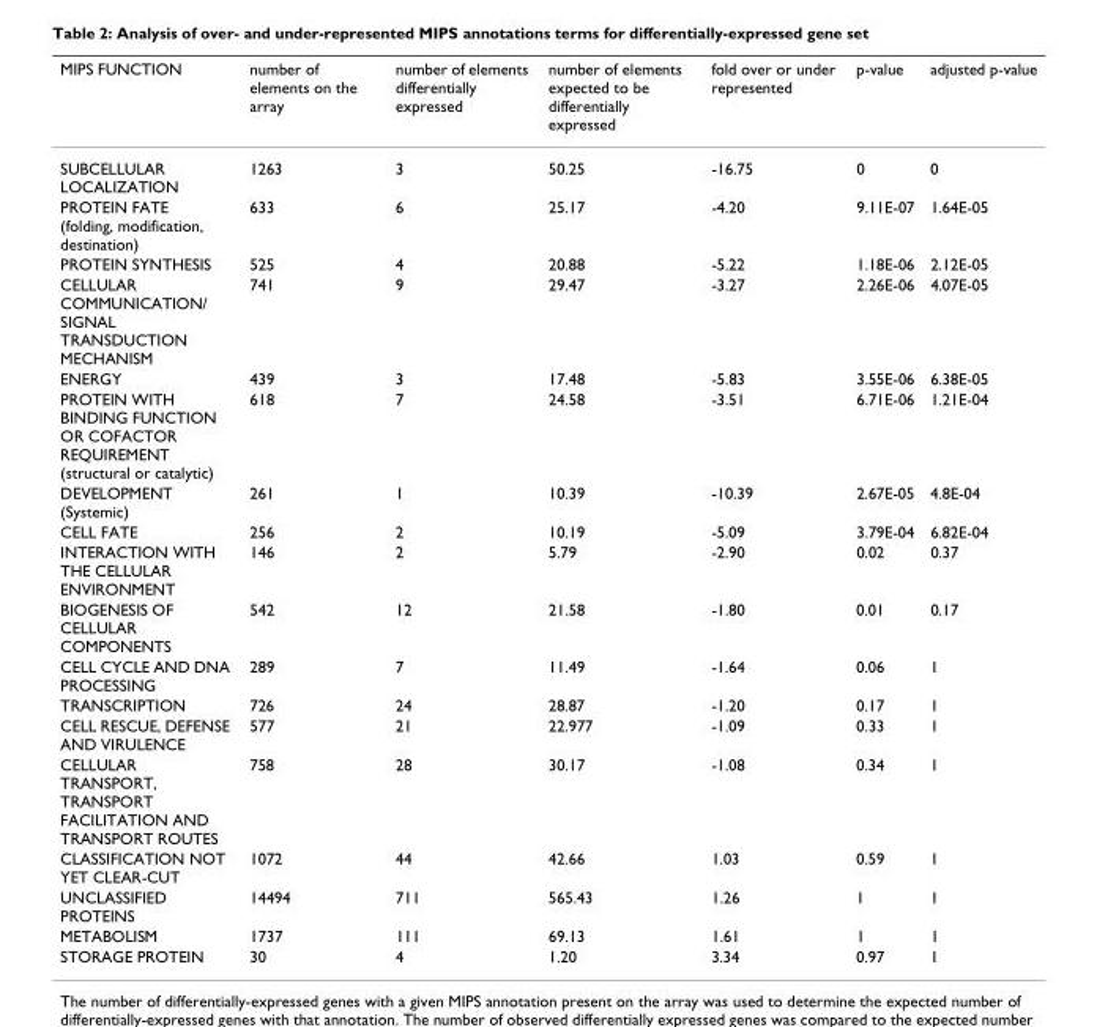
<table><thead><tr><td>MIPS FUNCTION</td><td>number of elements on the array</td><td>number of elements differentially expressed</td><td>number of elements expected to be differentially expressed</td><td>fold over or under represented</td><td>p-value</td><td>adjusted p-value</td></tr></thead><tbody><tr><td>SUBCELLULAR LOCALIZATION</td><td>1263</td><td>3</td><td>50.25</td><td>-16.75</td><td>0</td><td>0</td></tr><tr><td>PROTEIN FATE (folding, modification, destination)</td><td>633</td><td>6</td><td>25.17</td><td>-4.20</td><td>9.11E-07</td><td>1.64E-05</td></tr><tr><td>PROTEIN SYNTHESIS</td><td>525</td><td>4</td><td>20.88</td><td>-5.22</td><td>1.18E-06</td><td>2.12E-05</td></tr><tr><td>CELLULAR COMMUNICATION/ SIGNAL TRANSDUCTION MECHANISM</td><td>741</td><td>9</td><td>29.47</td><td>-3.27</td><td>2.26E-06</td><td>4.07E-05</td></tr><tr><td>ENERGY</td><td>439</td><td>3</td><td>17.48</td><td>-5.83</td><td>3.55E-06</td><td>6.38E-05</td></tr><tr><td>PROTEIN WITH BINDING FUNCTION OR COFACTOR REQUIREMENT (structural or catalytic)</td><td>618</td><td>7</td><td>24.58</td><td>-3.51</td><td>6.71E-06</td><td>1.21E-04</td></tr><tr><td>DEVELOPMENT (Systemic)</td><td>261</td><td>1</td><td>10.39</td><td>-10.39</td><td>2.67E-05</td><td>4.8E-04</td></tr><tr><td>CELL FATE</td><td>256</td><td>2</td><td>10.19</td><td>-5.09</td><td>3.79E-04</td><td>6.82E-04</td></tr><tr><td>INTERACTION WITH THE CELLULAR ENVIRONMENT</td><td>146</td><td>2</td><td>5.79</td><td>-2.90</td><td>0.02</td><td>0.37</td></tr><tr><td>BIOGENESIS OF CELLULAR COMPONENTS</td><td>542</td><td>12</td><td>21.58</td><td>-1.80</td><td>0.01</td><td>0.17</td></tr><tr><td>CELL CYCLE AND DNA PROCESSING</td><td>289</td><td>7</td><td>11.49</td><td>-1.64</td><td>0.06</td><td>1</td></tr><tr><td>TRANSCRIPTION</td><td>726</td><td>24</td><td>28.87</td><td>-1.20</td><td>0.17</td><td>1</td></tr><tr><td>CELL RESCUE, DEFENSE AND VIRULENCE</td><td>577</td><td>21</td><td>22.977</td><td>-1.09</td><td>0.33</td><td>1</td></tr><tr><td>CELLULAR TRANSPORT, TRANSPORT FACILITATION AND TRANSPORT ROUTES</td><td>758</td><td>28</td><td>30.17</td><td>-1.08</td><td>0.34</td><td>1</td></tr><tr><td>CLASSIFICATION NOT YET CLEAR-CUT</td><td>1072</td><td>44</td><td>42.66</td><td>1.03</td><td>0.59</td><td>1</td></tr><tr><td>UNCLASSIFIED PROTEINS</td><td>14494</td><td>711</td><td>565.43</td><td>1.26</td><td>1</td><td>1</td></tr><tr><td>METABOLISM</td><td>1737</td><td>111</td><td>69.13</td><td>1.61</td><td>1</td><td>1</td></tr><tr><td>STORAGE PROTEIN</td><td>30</td><td>4</td><td>1.20</td><td>3.34</td><td>0.97</td><td>1</td></tr></tbody></table>